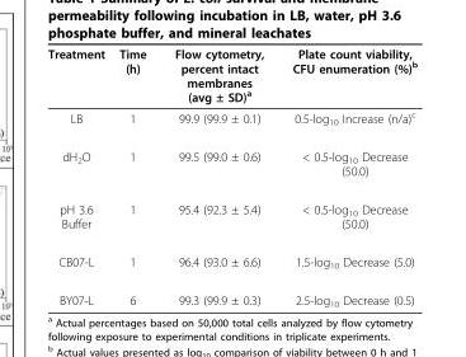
<table><thead><tr><td>Treatment</td><td>Time (h)</td><td>Flow cytometry, percent intact membranes (avg ± SD)<sup>a</sup></td><td>Plate count viability, CFU enumeration (%)<sup>b</sup></td></tr></thead><tbody><tr><td>LB</td><td>1</td><td>99.9 (99.9 ± 0.1)</td><td>0.5-log<sub>10</sub> Increase (n/a)<sup>c</sup></td></tr><tr><td>dH<sub>2</sub>O</td><td>1</td><td>99.5 (99.0 ± 0.6)</td><td>&lt; 0.5-log<sub>10</sub> Decrease (50.0)</td></tr><tr><td>pH 3.6 Buffer</td><td>1</td><td>95.4 (92.3 ± 5.4)</td><td>&lt; 0.5-log<sub>10</sub> Decrease (50.0)</td></tr><tr><td>CB07-L</td><td>1</td><td>96.4 (93.0 ± 6.6)</td><td>1.5-log<sub>10</sub> Decrease (5.0)</td></tr><tr><td>BY07-L</td><td>6</td><td>99.3 (99.9 ± 0.3)</td><td>2.5-log<sub>10</sub> Decrease (0.5)</td></tr></tbody></table>